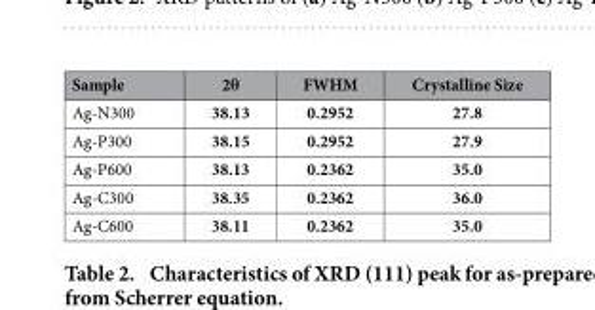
<table><thead><tr><td>Sample</td><td>2θ</td><td>FWHM</td><td>Crystalline Size</td></tr></thead><tbody><tr><td>Ag-N300</td><td>38.13</td><td>0.2952</td><td>27.8</td></tr><tr><td>Ag-P300</td><td>38.15</td><td>0.2952</td><td>27.9</td></tr><tr><td>Ag-P600</td><td>38.13</td><td>0.2362</td><td>35.0</td></tr><tr><td>Ag-C300</td><td>38.35</td><td>0.2362</td><td>36.0</td></tr><tr><td>Ag-C600</td><td>38.11</td><td>0.2362</td><td>35.0</td></tr></tbody></table>